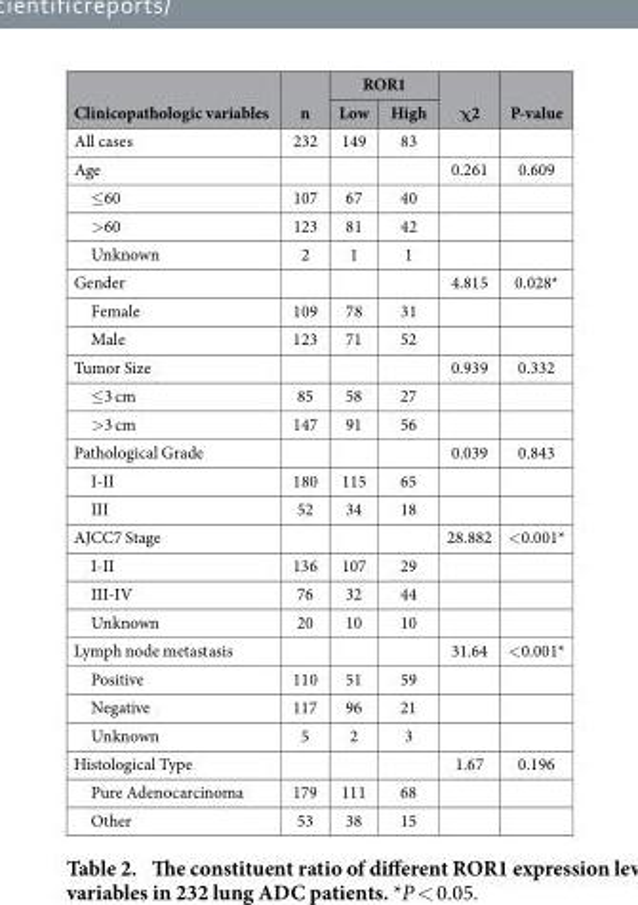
<table><thead><tr><td rowspan="2">Clinicopathologic variables</td><td rowspan="2">n</td><td colspan="2">ROR1</td><td rowspan="2">χ2</td><td rowspan="2">P-value</td></tr><tr><td>Low</td><td>High</td></tr></thead><tbody><tr><td>All cases</td><td>232</td><td>149</td><td>83</td><td></td><td></td></tr><tr><td>Age</td><td></td><td></td><td></td><td>0.261</td><td>0.609</td></tr><tr><td>≤ 60</td><td>107</td><td>67</td><td>40</td><td></td><td></td></tr><tr><td>&gt; 60</td><td>123</td><td>81</td><td>42</td><td></td><td></td></tr><tr><td>Unknown</td><td>2</td><td>1</td><td>1</td><td></td><td></td></tr><tr><td>Gender</td><td></td><td></td><td></td><td>4.815</td><td>0.028*</td></tr><tr><td>Female</td><td>109</td><td>78</td><td>31</td><td></td><td></td></tr><tr><td>Male</td><td>123</td><td>71</td><td>52</td><td></td><td></td></tr><tr><td>Tumor Size</td><td></td><td></td><td></td><td>0.939</td><td>0.332</td></tr><tr><td>≤ 3 cm</td><td>85</td><td>58</td><td>27</td><td></td><td></td></tr><tr><td>&gt; 3 cm</td><td>147</td><td>91</td><td>56</td><td></td><td></td></tr><tr><td>Pathological Grade</td><td></td><td></td><td></td><td>0.039</td><td>0.843</td></tr><tr><td>I-II</td><td>180</td><td>115</td><td>65</td><td></td><td></td></tr><tr><td>III</td><td>52</td><td>34</td><td>18</td><td></td><td></td></tr><tr><td>AJCC7 Stage</td><td></td><td></td><td></td><td>28.882</td><td>&lt; 0.001*</td></tr><tr><td>I-II</td><td>136</td><td>107</td><td>29</td><td></td><td></td></tr><tr><td>III-IV</td><td>76</td><td>32</td><td>44</td><td></td><td></td></tr><tr><td>Unknown</td><td>20</td><td>10</td><td>10</td><td></td><td></td></tr><tr><td>Lymph node metastasis</td><td></td><td></td><td></td><td>31.64</td><td>&lt; 0.001*</td></tr><tr><td>Positive</td><td>110</td><td>51</td><td>59</td><td></td><td></td></tr><tr><td>Negative</td><td>117</td><td>96</td><td>21</td><td></td><td></td></tr><tr><td>Unknown</td><td>5</td><td>2</td><td>3</td><td></td><td></td></tr><tr><td>Histological Type</td><td></td><td></td><td></td><td>1.67</td><td>0.196</td></tr><tr><td>Pure Adenocarcinoma</td><td>179</td><td>111</td><td>68</td><td></td><td></td></tr><tr><td>Other</td><td>53</td><td>38</td><td>15</td><td></td><td></td></tr></tbody></table>